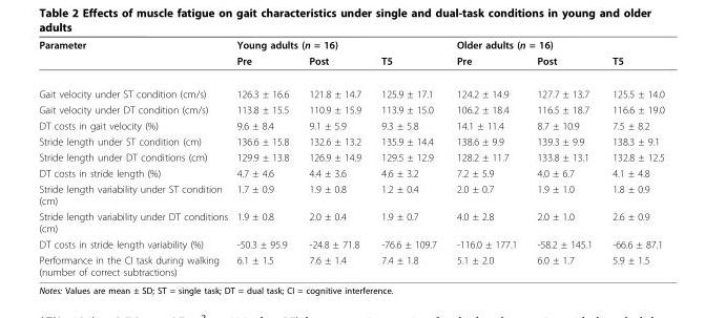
<table><thead><tr><td rowspan="2">Parameter</td><td colspan="3">Young adults (n = 16)</td><td colspan="3">Older adults (n = 16)</td></tr><tr><td>Pre</td><td>Post</td><td>T5</td><td>Pre</td><td>Post</td><td>T5</td></tr></thead><tbody><tr><td>Gait velocity under ST condition (cm/s)</td><td>126.3 ± 16.6</td><td>121.8 ± 14.7</td><td>125.9 ± 17.1</td><td>124.2 ± 14.9</td><td>127.7 ± 13.7</td><td>125.5 ± 14.0</td></tr><tr><td>Gait velocity under DT condition (cm/s)</td><td>113.8 ± 15.5</td><td>110.9 ± 15.9</td><td>113.9 ± 15.0</td><td>106.2 ± 18.4</td><td>116.5 ± 18.7</td><td>116.6 ± 19.0</td></tr><tr><td>DT costs in gait velocity (%)</td><td>9.6 ± 8.4</td><td>9.1 ± 5.9</td><td>9.3 ± 5.8</td><td>14.1 ± 11.4</td><td>8.7 ± 10.9</td><td>7.5 ± 8.2</td></tr><tr><td>Stride length under ST condition (cm)</td><td>136.6 ± 15.8</td><td>132.6 ± 13.2</td><td>135.9 ± 14.4</td><td>138.6 ± 9.9</td><td>139.3 ± 9.9</td><td>138.3 ± 9.1</td></tr><tr><td>Stride length under DT conditions (cm)</td><td>129.9 ± 13.8</td><td>126.9 ± 14.9</td><td>129.5 ± 12.9</td><td>128.2 ± 11.7</td><td>133.8 ± 13.1</td><td>132.8 ± 12.5</td></tr><tr><td>DT costs in stride length (%)</td><td>4.7 ± 4.6</td><td>4.4 ± 3.6</td><td>4.6 ± 3.2</td><td>7.2 ± 5.9</td><td>4.0 ± 6.7</td><td>4.1 ± 4.8</td></tr><tr><td>Stride length variability under ST condition (cm)</td><td>1.7 ± 0.9</td><td>1.9 ± 0.8</td><td>1.2 ± 0.4</td><td>2.0 ± 0.7</td><td>1.9 ± 1.0</td><td>1.8 ± 0.9</td></tr><tr><td>Stride length variability under DT conditions (cm)</td><td>1.9 ± 0.8</td><td>2.0 ± 0.4</td><td>1.9 ± 0.7</td><td>4.0 ± 2.8</td><td>2.0 ± 1.0</td><td>2.6 ± 0.9</td></tr><tr><td>DT costs in stride length variability (%)</td><td>-50.3 ± 95.9</td><td>-24.8 ± 71.8</td><td>-76.6 ± 109.7</td><td>-116.0 ± 177.1</td><td>-58.2 ± 145.1</td><td>-66.6 ± 87.1</td></tr><tr><td>Performance in the CI task during walking (number of correct subtractions)</td><td>6.1 ± 1.5</td><td>7.6 ± 1.4</td><td>7.4 ± 1.8</td><td>5.1 ± 2.0</td><td>6.0 ± 1.7</td><td>5.9 ± 1.5</td></tr></tbody></table>